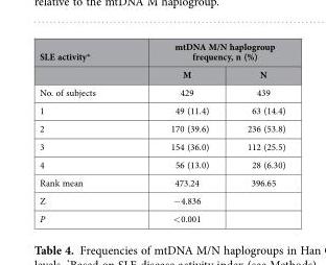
<table><thead><tr><td rowspan="2">SLE activity*</td><td colspan="2">mtDNA M/N haplogroup frequency, n (%)</td></tr><tr><td>M</td><td>N</td></tr></thead><tbody><tr><td>No. of subjects</td><td>429</td><td>439</td></tr><tr><td>1</td><td>49 (11.4)</td><td>63 (14.4)</td></tr><tr><td>2</td><td>170 (39.6)</td><td>236 (53.8)</td></tr><tr><td>3</td><td>154 (36.0)</td><td>112 (25.5)</td></tr><tr><td>4</td><td>56 (13.0)</td><td>28 (6.30)</td></tr><tr><td>Rank mean</td><td>473.24</td><td>396.65</td></tr><tr><td>Z</td><td>− 4.836</td><td></td></tr><tr><td>P</td><td>&lt; 0.001</td><td></td></tr></tbody></table>